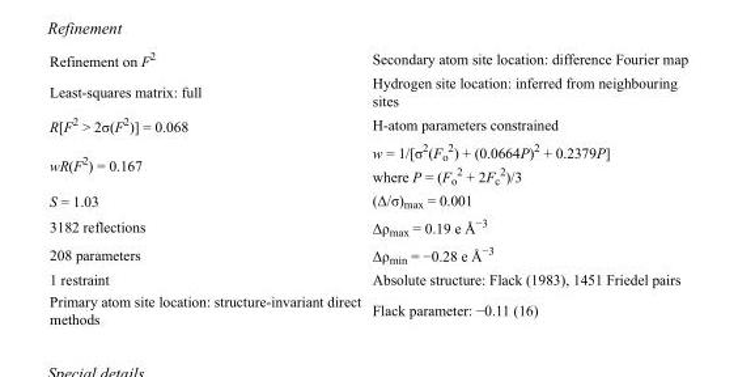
<table><tbody><tr><td>Refinement on F<sup>2</sup></td><td>Secondary atom site location: difference Fourier map</td></tr><tr><td>Least-squares matrix: full</td><td>Hydrogen site location: inferred from neighbouring sites</td></tr><tr><td>R[F<sup>2</sup> &gt; 2σ(F<sup>2</sup>)] = 0.068</td><td>H-atom parameters constrained</td></tr><tr><td>wR(F<sup>2</sup>) = 0.167</td><td>w = 1/[σ<sup>2</sup>(F<sub>o</sub> <sup>2</sup>) + (0.0664P)<sup>2</sup> + 0.2379P] where P = (F<sub>o</sub> <sup>2</sup> + 2F<sub>c</sub> <sup>2</sup>)/3</td></tr><tr><td>S = 1.03</td><td>(Δ/σ)<sub>max</sub> = 0.001</td></tr><tr><td>3182 reflections</td><td>Δρ<sub>max</sub> = 0.19 e Å<sup>−3</sup></td></tr><tr><td>208 parameters</td><td>Δρ<sub>min</sub> = −0.28 e Å<sup>−3</sup></td></tr><tr><td>1 restraint</td><td>Absolute structure: Flack (1983), 1451 Friedel pairs</td></tr><tr><td>Primary atom site location: structure-invariant direct methods</td><td>Flack parameter: −0.11 (16)</td></tr></tbody></table>